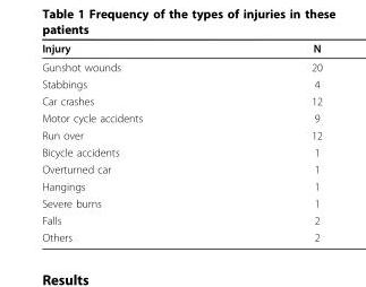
<table><thead><tr><td>Injury</td><td>N</td></tr></thead><tbody><tr><td>Gunshot wounds</td><td>20</td></tr><tr><td>Stabbings</td><td>4</td></tr><tr><td>Car crashes</td><td>12</td></tr><tr><td>Motor cycle accidents</td><td>9</td></tr><tr><td>Run over</td><td>12</td></tr><tr><td>Bicycle accidents</td><td>1</td></tr><tr><td>Overturned car</td><td>1</td></tr><tr><td>Hangings</td><td>1</td></tr><tr><td>Severe burns</td><td>1</td></tr><tr><td>Falls</td><td>2</td></tr><tr><td>Others</td><td>2</td></tr></tbody></table>